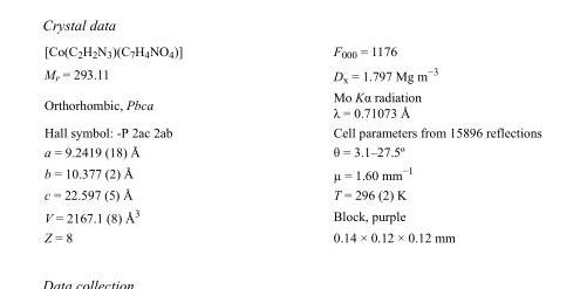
<table><tbody><tr><td>[Co(C<sub>2</sub>H<sub>2</sub>N<sub>3</sub>)(C<sub>7</sub>H<sub>4</sub>NO<sub>4</sub>)]</td><td>F000 = 1176</td></tr><tr><td>M<sub>r</sub> = 293.11</td><td>D<sub>x</sub> = 1.797 Mg m<sup>−3</sup></td></tr><tr><td>Orthorhombic, Pbca</td><td>Mo Kα radiation λ = 0.71073 Å</td></tr><tr><td>Hall symbol: -P 2ac 2ab</td><td>Cell parameters from 15896 reflections</td></tr><tr><td>a = 9.2419 (18) Å</td><td>θ = 3.1–27.5º</td></tr><tr><td>b = 10.377 (2) Å</td><td>µ = 1.60 mm<sup>−1</sup></td></tr><tr><td>c = 22.597 (5) Å</td><td>T = 296 (2) K</td></tr><tr><td>V = 2167.1 (8) Å<sup>3</sup></td><td>Block, purple</td></tr><tr><td>Z = 8</td><td>0.14 × 0.12 × 0.12 mm</td></tr></tbody></table>